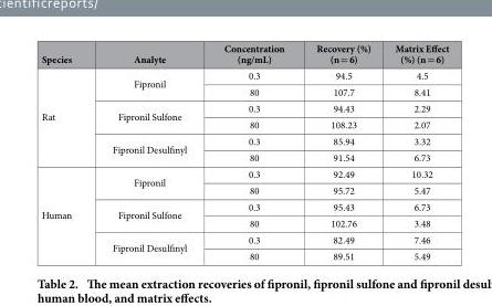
<table><thead><tr><td>Species</td><td>Analyte</td><td>Concentration (ng/mL)</td><td>Recovery (%) (n = 6)</td><td>Matrix Effect (%) (n = 6)</td></tr></thead><tbody><tr><td rowspan="6">Rat</td><td rowspan="2">Fipronil</td><td>0.3</td><td>94.5</td><td>4.5</td></tr><tr><td>80</td><td>107.7</td><td>8.41</td></tr><tr><td rowspan="2">Fipronil Sulfone</td><td>0.3</td><td>94.43</td><td>2.29</td></tr><tr><td>80</td><td>108.23</td><td>2.07</td></tr><tr><td rowspan="2">Fipronil Desulfinyl</td><td>0.3</td><td>85.94</td><td>3.32</td></tr><tr><td>80</td><td>91.54</td><td>6.73</td></tr><tr><td rowspan="6">Human</td><td rowspan="2">Fipronil</td><td>0.3</td><td>92.49</td><td>10.32</td></tr><tr><td>80</td><td>95.72</td><td>5.47</td></tr><tr><td rowspan="2">Fipronil Sulfone</td><td>0.3</td><td>95.43</td><td>6.73</td></tr><tr><td>80</td><td>102.76</td><td>3.48</td></tr><tr><td rowspan="2">Fipronil Desulfinyl</td><td>0.3</td><td>82.49</td><td>7.46</td></tr><tr><td>80</td><td>89.51</td><td>5.49</td></tr></tbody></table>